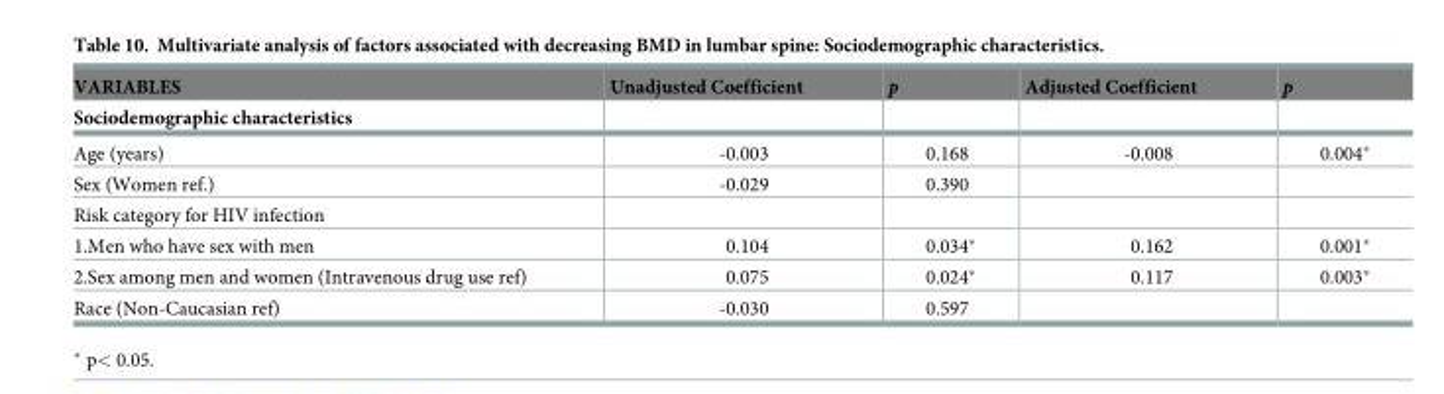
<table><thead><tr><td rowspan="2">VARIABLES Sociodemographic characteristics</td><td rowspan="2">Unadjusted Coefficient</td><td rowspan="2">p</td><td rowspan="2">Adjusted Coefficient</td><td rowspan="2">p</td></tr><tr></tr></thead><tbody><tr><td>Age (years)</td><td>-0.003</td><td>0.168</td><td>-0.008</td><td>0.004*</td></tr><tr><td>Sex (Women ref.)</td><td>-0.029</td><td>0.390</td><td></td><td></td></tr><tr><td colspan="5">Risk category for HIV infection</td></tr><tr><td>1.Men who have sex with men</td><td>0.104</td><td>0.034*</td><td>0.162</td><td>0.001*</td></tr><tr><td>2.Sex among men and women (Intravenous drug use ref)</td><td>0.075</td><td>0.024*</td><td>0.117</td><td>0.003*</td></tr><tr><td>Race (Non-Caucasian ref)</td><td>-0.030</td><td>0.597</td><td></td><td></td></tr></tbody></table>